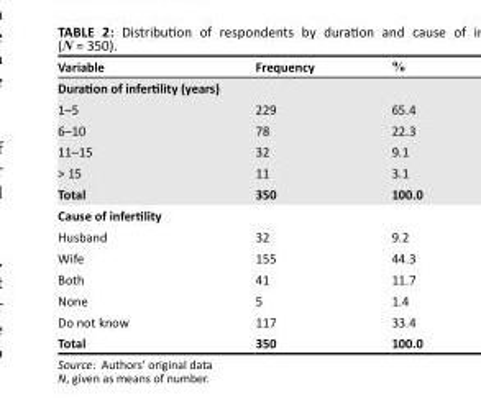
<table><thead><tr><td>Variable</td><td>Frequency</td><td>%</td></tr></thead><tbody><tr><td colspan="3">Duration of infertility (years)</td></tr><tr><td>1–5</td><td>229</td><td>65.4</td></tr><tr><td>6–10</td><td>78</td><td>22.3</td></tr><tr><td>11–15</td><td>32</td><td>9.1</td></tr><tr><td>&gt; 15</td><td>11</td><td>3.1</td></tr><tr><td>Total</td><td>350</td><td>100.0</td></tr><tr><td colspan="3">Cause of infertility</td></tr><tr><td>Husband</td><td>32</td><td>9.2</td></tr><tr><td>Wife</td><td>155</td><td>44.3</td></tr><tr><td>Both</td><td>41</td><td>11.7</td></tr><tr><td>None</td><td>5</td><td>1.4</td></tr><tr><td>Do not know</td><td>117</td><td>33.4</td></tr><tr><td>Total</td><td>350</td><td>100.0</td></tr></tbody></table>